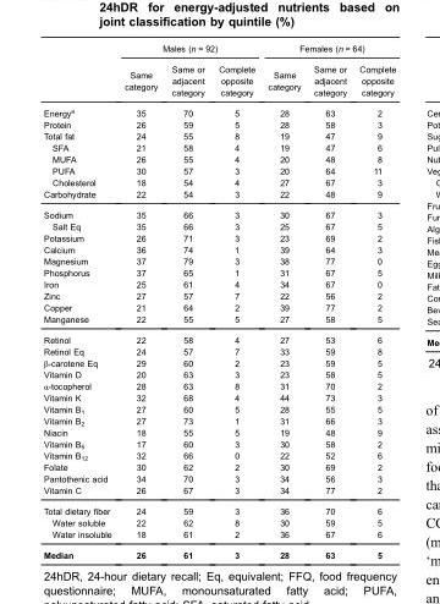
<table><thead><tr><td rowspan="2"></td><td colspan="3">Males (n = 92)</td><td colspan="3">Females (n = 64)</td></tr><tr><td>Same category</td><td>Same or adjacent category</td><td>Complete opposite category</td><td>Same category</td><td>Same or adjacent category</td><td>Complete opposite category</td></tr></thead><tbody><tr><td>Energy<sup>a</sup></td><td>35</td><td>70</td><td>5</td><td>28</td><td>63</td><td>2</td></tr><tr><td>Protein</td><td>26</td><td>59</td><td>5</td><td>28</td><td>58</td><td>3</td></tr><tr><td>Total fat</td><td>24</td><td>55</td><td>8</td><td>19</td><td>47</td><td>9</td></tr><tr><td>SFA</td><td>21</td><td>58</td><td>4</td><td>19</td><td>47</td><td>6</td></tr><tr><td>MUFA</td><td>26</td><td>55</td><td>4</td><td>20</td><td>48</td><td>8</td></tr><tr><td>PUFA</td><td>30</td><td>57</td><td>3</td><td>20</td><td>64</td><td>11</td></tr><tr><td>Cholesterol</td><td>18</td><td>54</td><td>4</td><td>27</td><td>67</td><td>3</td></tr><tr><td>Carbohydrate</td><td>22</td><td>54</td><td>3</td><td>22</td><td>48</td><td>9</td></tr><tr><td>Sodium</td><td>35</td><td>66</td><td>3</td><td>30</td><td>67</td><td>3</td></tr><tr><td>Salt Eq</td><td>35</td><td>66</td><td>3</td><td>25</td><td>67</td><td>5</td></tr><tr><td>Potassium</td><td>26</td><td>71</td><td>3</td><td>23</td><td>69</td><td>2</td></tr><tr><td>Calcium</td><td>36</td><td>74</td><td>1</td><td>39</td><td>64</td><td>3</td></tr><tr><td>Magnesium</td><td>37</td><td>79</td><td>3</td><td>38</td><td>77</td><td>0</td></tr><tr><td>Phosphorus</td><td>37</td><td>65</td><td>1</td><td>31</td><td>67</td><td>5</td></tr><tr><td>Iron</td><td>25</td><td>61</td><td>4</td><td>34</td><td>67</td><td>0</td></tr><tr><td>Zinc</td><td>27</td><td>57</td><td>7</td><td>22</td><td>56</td><td>2</td></tr><tr><td>Copper</td><td>21</td><td>64</td><td>2</td><td>39</td><td>77</td><td>2</td></tr><tr><td>Manganese</td><td>22</td><td>55</td><td>5</td><td>27</td><td>58</td><td>5</td></tr><tr><td>Retinol</td><td>22</td><td>58</td><td>4</td><td>27</td><td>53</td><td>6</td></tr><tr><td>Retinol Eq</td><td>24</td><td>57</td><td>7</td><td>33</td><td>59</td><td>8</td></tr><tr><td>β-carotene Eq</td><td>29</td><td>60</td><td>2</td><td>23</td><td>59</td><td>5</td></tr><tr><td>Vitamin D</td><td>20</td><td>63</td><td>3</td><td>23</td><td>58</td><td>5</td></tr><tr><td>α-tocopherol</td><td>28</td><td>63</td><td>8</td><td>31</td><td>70</td><td>2</td></tr><tr><td>Vitamin K</td><td>32</td><td>68</td><td>4</td><td>44</td><td>73</td><td>3</td></tr><tr><td>Vitamin B<sub>1</sub></td><td>27</td><td>60</td><td>5</td><td>28</td><td>55</td><td>5</td></tr><tr><td>Vitamin B<sub>2</sub></td><td>27</td><td>73</td><td>1</td><td>31</td><td>66</td><td>3</td></tr><tr><td>Niacin</td><td>18</td><td>55</td><td>5</td><td>19</td><td>48</td><td>9</td></tr><tr><td>Vitamin B<sub>6</sub></td><td>17</td><td>60</td><td>3</td><td>30</td><td>58</td><td>2</td></tr><tr><td>Vitamin B<sub>12</sub></td><td>32</td><td>66</td><td>0</td><td>22</td><td>52</td><td>6</td></tr><tr><td>Folate</td><td>30</td><td>62</td><td>2</td><td>30</td><td>69</td><td>2</td></tr><tr><td>Pantothenic acid</td><td>34</td><td>70</td><td>3</td><td>34</td><td>56</td><td>3</td></tr><tr><td>Vitamin C</td><td>26</td><td>67</td><td>3</td><td>34</td><td>77</td><td>2</td></tr><tr><td>Total dietary fiber</td><td>24</td><td>59</td><td>3</td><td>36</td><td>70</td><td>6</td></tr><tr><td>Water soluble</td><td>22</td><td>62</td><td>8</td><td>30</td><td>59</td><td>5</td></tr><tr><td>Water insoluble</td><td>18</td><td>61</td><td>2</td><td>36</td><td>67</td><td>6</td></tr><tr><td>Median</td><td>26</td><td>61</td><td>3</td><td>28</td><td>63</td><td>5</td></tr></tbody></table>